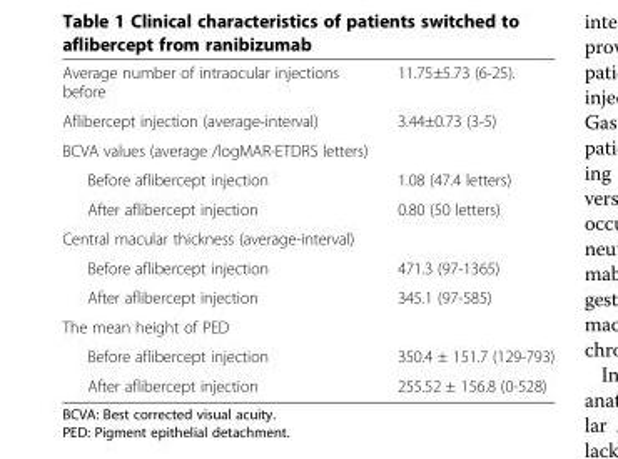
<table><tbody><tr><td>Average number of intraocular injections before</td><td>11.75±5.73 (6-25).</td></tr><tr><td>Aflibercept injection (average-interval)</td><td>3.44±0.73 (3-5)</td></tr><tr><td colspan="2">BCVA values (average /logMAR-ETDRS letters)</td></tr><tr><td>Before aflibercept injection</td><td>1.08 (47.4 letters)</td></tr><tr><td>After aflibercept injection</td><td>0.80 (50 letters)</td></tr><tr><td colspan="2">Central macular thickness (average-interval)</td></tr><tr><td>Before aflibercept injection</td><td>471.3 (97-1365)</td></tr><tr><td>After aflibercept injection</td><td>345.1 (97-585)</td></tr><tr><td colspan="2">The mean height of PED</td></tr><tr><td>Before aflibercept injection</td><td>350.4 ± 151.7 (129-793)</td></tr><tr><td>After aflibercept injection</td><td>255.52 ± 156.8 (0-528)</td></tr></tbody></table>